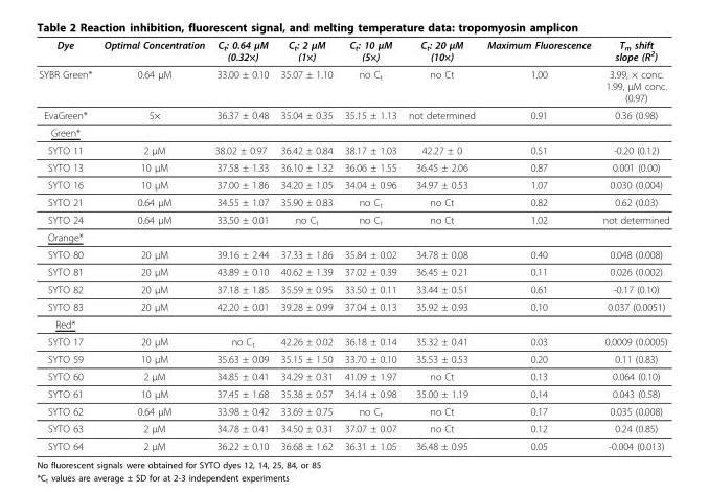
<table><thead><tr><td>Dye</td><td>Optimal Concentration</td><td>C<sub>t</sub>: 0.64 μM (0.32×)</td><td>C<sub>t</sub>: 2 μM (1×)</td><td>C<sub>t</sub>: 10 μM (5×)</td><td>C<sub>t</sub>: 20 μM (10×)</td><td>Maximum Fluorescence</td><td>T<sub>m</sub> shift slope (R<sup>2</sup>)</td></tr></thead><tbody><tr><td>SYBR Green*</td><td>0.64 μM</td><td>33.00 ± 0.10</td><td>35.07 ± 1.10</td><td>no C<sub>t</sub></td><td>no Ct</td><td>1.00</td><td>3.99, × conc. 1.99, μM conc. (0.97)</td></tr><tr><td>EvaGreen*</td><td>5×</td><td>36.37 ± 0.48</td><td>35.04 ± 0.35</td><td>35.15 ± 1.13</td><td>not determined</td><td>0.91</td><td>0.36 (0.98)</td></tr><tr><td colspan="8">Green*</td></tr><tr><td>SYTO 11</td><td>2 μM</td><td>38.02 ± 0.97</td><td>36.42 ± 0.84</td><td>38.17 ± 1.03</td><td>42.27 ± 0</td><td>0.51</td><td>-0.20 (0.12)</td></tr><tr><td>SYTO 13</td><td>10 μM</td><td>37.58 ± 1.33</td><td>36.10 ± 1.32</td><td>36.06 ± 1.55</td><td>36.45 ± 2.06</td><td>0.87</td><td>0.001 (0.00)</td></tr><tr><td>SYTO 16</td><td>10 μM</td><td>37.00 ± 1.86</td><td>34.20 ± 1.05</td><td>34.04 ± 0.96</td><td>34.97 ± 0.53</td><td>1.07</td><td>0.030 (0.004)</td></tr><tr><td>SYTO 21</td><td>0.64 μM</td><td>34.55 ± 1.07</td><td>35.90 ± 0.83</td><td>no C<sub>t</sub></td><td>no Ct</td><td>0.82</td><td>0.62 (0.03)</td></tr><tr><td>SYTO 24</td><td>0.64 μM</td><td>33.50 ± 0.01</td><td>no C<sub>t</sub></td><td>no C<sub>t</sub></td><td>no Ct</td><td>1.02</td><td>not determined</td></tr><tr><td colspan="8">Orange*</td></tr><tr><td>SYTO 80</td><td>20 μM</td><td>39.16 ± 2.44</td><td>37.33 ± 1.86</td><td>35.84 ± 0.02</td><td>34.78 ± 0.08</td><td>0.40</td><td>0.048 (0.008)</td></tr><tr><td>SYTO 81</td><td>20 μM</td><td>43.89 ± 0.10</td><td>40.62 ± 1.39</td><td>37.02 ± 0.39</td><td>36.45 ± 0.21</td><td>0.11</td><td>0.026 (0.002)</td></tr><tr><td>SYTO 82</td><td>20 μM</td><td>37.18 ± 1.85</td><td>35.59 ± 0.95</td><td>33.50 ± 0.11</td><td>33.44 ± 0.51</td><td>0.61</td><td>-0.17 (0.10)</td></tr><tr><td>SYTO 83</td><td>20 μM</td><td>42.20 ± 0.01</td><td>39.28 ± 0.99</td><td>37.04 ± 0.13</td><td>35.92 ± 0.93</td><td>0.10</td><td>0.037 (0.0051)</td></tr><tr><td colspan="8">Red*</td></tr><tr><td>SYTO 17</td><td>20 μM</td><td>no C<sub>t</sub></td><td>42.26 ± 0.02</td><td>36.18 ± 0.14</td><td>35.32 ± 0.41</td><td>0.03</td><td>0.0009 (0.0005)</td></tr><tr><td>SYTO 59</td><td>10 μM</td><td>35.63 ± 0.09</td><td>35.15 ± 1.50</td><td>33.70 ± 0.10</td><td>35.53 ± 0.53</td><td>0.20</td><td>0.11 (0.83)</td></tr><tr><td>SYTO 60</td><td>2 μM</td><td>34.85 ± 0.41</td><td>34.29 ± 0.31</td><td>41.09 ± 1.97</td><td>no Ct</td><td>0.13</td><td>0.064 (0.10)</td></tr><tr><td>SYTO 61</td><td>10 μM</td><td>37.45 ± 1.68</td><td>35.38 ± 0.57</td><td>34.14 ± 0.98</td><td>35.00 ± 1.19</td><td>0.14</td><td>0.043 (0.58)</td></tr><tr><td>SYTO 62</td><td>0.64 μM</td><td>33.98 ± 0.42</td><td>33.69 ± 0.75</td><td>no C<sub>t</sub></td><td>no Ct</td><td>0.17</td><td>0.035 (0.008)</td></tr><tr><td>SYTO 63</td><td>2 μM</td><td>34.78 ± 0.41</td><td>34.50 ± 0.31</td><td>37.07 ± 0.07</td><td>no Ct</td><td>0.12</td><td>0.24 (0.85)</td></tr><tr><td>SYTO 64</td><td>2 μM</td><td>36.22 ± 0.10</td><td>36.68 ± 1.62</td><td>36.31 ± 1.05</td><td>36.48 ± 0.95</td><td>0.05</td><td>-0.004 (0.013)</td></tr></tbody></table>